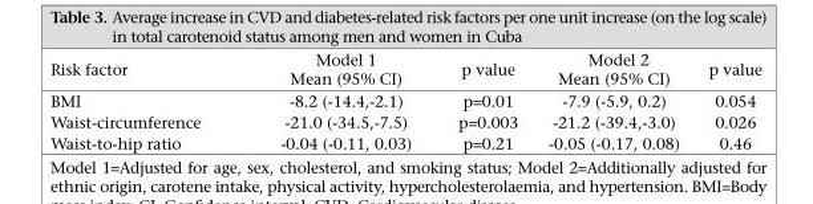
<table><thead><tr><td>Risk factor</td><td>Model 1 Mean (95% CI)</td><td>p value</td><td>Model 2 Mean (95% CI)</td><td>p value</td></tr></thead><tbody><tr><td>BMI</td><td>-8.2 (-14.4,-2.1)</td><td>p=0.01</td><td>-7.9 (-5.9, 0.2)</td><td>0.054</td></tr><tr><td>Waist-circumference</td><td>-21.0 (-34.5,-7.5)</td><td>p=0.003</td><td>-21.2 (-39.4,-3.0)</td><td>0.026</td></tr><tr><td>Waist-to-hip ratio</td><td>-0.04 (-0.11, 0.03)</td><td>p=0.21</td><td>-0.05 (-0.17, 0.08)</td><td>0.46</td></tr></tbody></table>